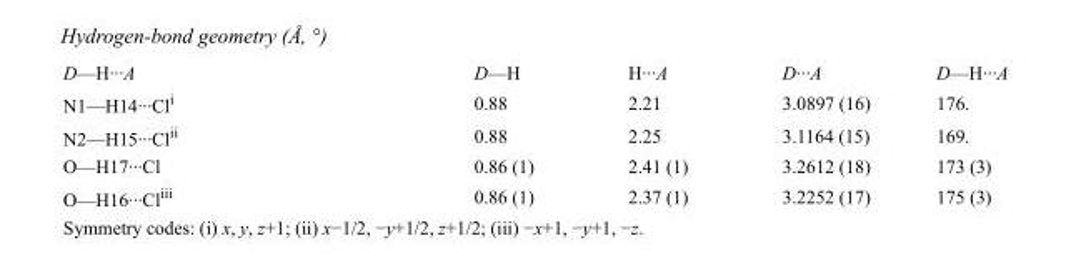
<table><tbody><tr><td>D—H···A</td><td>D—H</td><td>H···A</td><td>D···A</td><td>D—H···A</td></tr><tr><td>N1—H14···Cl<sup>i</sup></td><td>0.88</td><td>2.21</td><td>3.0897 (16)</td><td>176.</td></tr><tr><td>N2—H15···Cl<sup>ii</sup></td><td>0.88</td><td>2.25</td><td>3.1164 (15)</td><td>169.</td></tr><tr><td>O—H17···Cl</td><td>0.86 (1)</td><td>2.41 (1)</td><td>3.2612 (18)</td><td>173 (3)</td></tr><tr><td>O—H16···Cl<sup>iii</sup></td><td>0.86 (1)</td><td>2.37 (1)</td><td>3.2252 (17)</td><td>175 (3)</td></tr></tbody></table>